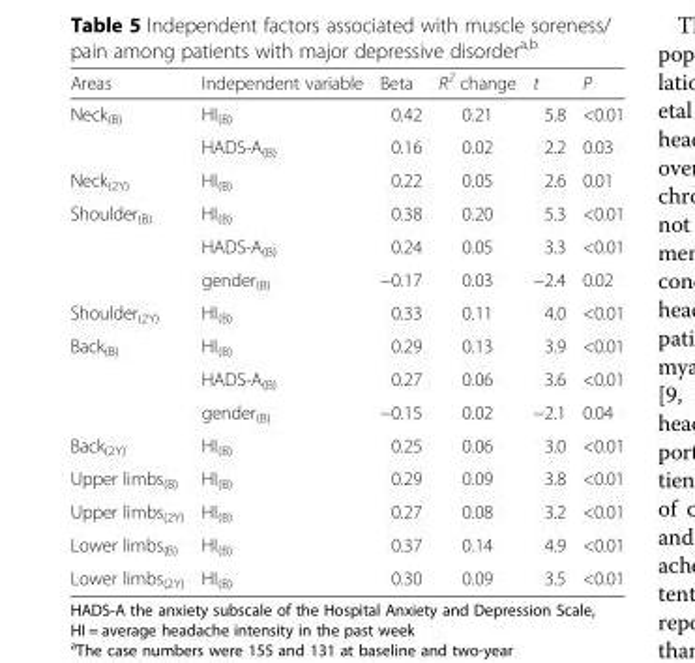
<table><thead><tr><td>Areas</td><td>Independent variable</td><td>Beta</td><td>R<sup>2</sup> change</td><td>t</td><td>P</td></tr></thead><tbody><tr><td rowspan="2">Neck<sub>(B)</sub></td><td>HI<sub>(B)</sub></td><td>0.42</td><td>0.21</td><td>5.8</td><td>&lt;0.01</td></tr><tr><td>HADS-A<sub>(B)</sub></td><td>0.16</td><td>0.02</td><td>2.2</td><td>0.03</td></tr><tr><td>Neck<sub>(2Y)</sub></td><td>HI<sub>(B)</sub></td><td>0.22</td><td>0.05</td><td>2.6</td><td>0.01</td></tr><tr><td rowspan="3">Shoulder<sub>(B)</sub></td><td>HI<sub>(B)</sub></td><td>0.38</td><td>0.20</td><td>5.3</td><td>&lt;0.01</td></tr><tr><td>HADS-A<sub>(B)</sub></td><td>0.24</td><td>0.05</td><td>3.3</td><td>&lt;0.01</td></tr><tr><td>gender<sub>(B)</sub></td><td>−0.17</td><td>0.03</td><td>−2.4</td><td>0.02</td></tr><tr><td>Shoulder<sub>(2Y)</sub></td><td>HI<sub>(B)</sub></td><td>0.33</td><td>0.11</td><td>4.0</td><td>&lt;0.01</td></tr><tr><td rowspan="3">Back<sub>(B)</sub></td><td>HI<sub>(B)</sub></td><td>0.29</td><td>0.13</td><td>3.9</td><td>&lt;0.01</td></tr><tr><td>HADS-A<sub>(B)</sub></td><td>0.27</td><td>0.06</td><td>3.6</td><td>&lt;0.01</td></tr><tr><td>gender<sub>(B)</sub></td><td>−0.15</td><td>0.02</td><td>−2.1</td><td>0.04</td></tr><tr><td>Back<sub>(2Y)</sub></td><td>HI<sub>(B)</sub></td><td>0.25</td><td>0.06</td><td>3.0</td><td>&lt;0.01</td></tr><tr><td>Upper limbs<sub>(B)</sub></td><td>HI<sub>(B)</sub></td><td>0.29</td><td>0.09</td><td>3.8</td><td>&lt;0.01</td></tr><tr><td>Upper limbs<sub>(2Y)</sub></td><td>HI<sub>(B)</sub></td><td>0.27</td><td>0.08</td><td>3.2</td><td>&lt;0.01</td></tr><tr><td>Lower limbs<sub>(B)</sub></td><td>HI<sub>(B)</sub></td><td>0.37</td><td>0.14</td><td>4.9</td><td>&lt;0.01</td></tr><tr><td>Lower limbs<sub>(2Y)</sub></td><td>HI<sub>(B)</sub></td><td>0.30</td><td>0.09</td><td>3.5</td><td>&lt;0.01</td></tr></tbody></table>